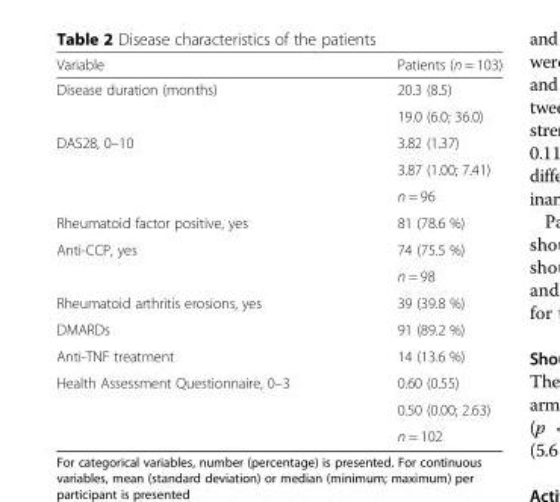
<table><thead><tr><td>Variable</td><td>Patients (n = 103)</td></tr></thead><tbody><tr><td rowspan="2">Disease duration (months)</td><td>20.3 (8.5)</td></tr><tr><td>19.0 (6.0; 36.0)</td></tr><tr><td rowspan="3">DAS28, 0–10</td><td>3.82 (1.37)</td></tr><tr><td>3.87 (1.00; 7.41)</td></tr><tr><td>n = 96</td></tr><tr><td>Rheumatoid factor positive, yes</td><td>81 (78.6 %)</td></tr><tr><td rowspan="2">Anti-CCP, yes</td><td>74 (75.5 %)</td></tr><tr><td>n = 98</td></tr><tr><td>Rheumatoid arthritis erosions, yes</td><td>39 (39.8 %)</td></tr><tr><td>DMARDs</td><td>91 (89.2 %)</td></tr><tr><td>Anti-TNF treatment</td><td>14 (13.6 %)</td></tr><tr><td rowspan="3">Health Assessment Questionnaire, 0–3</td><td>0.60 (0.55)</td></tr><tr><td>0.50 (0.00; 2.63)</td></tr><tr><td>n = 102</td></tr></tbody></table>